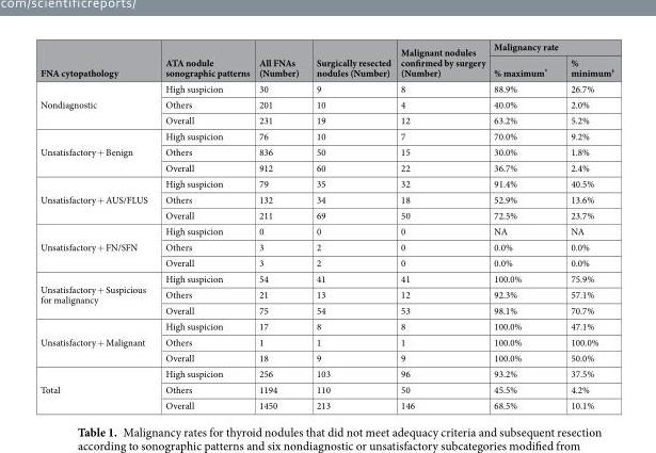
<table><thead><tr><td rowspan="2">FNA cytopathology</td><td rowspan="2">ATA nodule sonographic patterns</td><td rowspan="2">All FNAs (Number)</td><td rowspan="2">Surgically resected nodules (Number)</td><td rowspan="2">Malignant nodules confirmed by surgery (Number)</td><td colspan="2">Malignancy rate</td></tr><tr><td>% maximum*</td><td>% minimum<sup>†</sup></td></tr></thead><tbody><tr><td rowspan="3">Nondiagnostic</td><td>High suspicion</td><td>30</td><td>9</td><td>8</td><td>88.9%</td><td>26.7%</td></tr><tr><td>Others</td><td>201</td><td>10</td><td>4</td><td>40.0%</td><td>2.0%</td></tr><tr><td>Overall</td><td>231</td><td>19</td><td>12</td><td>63.2%</td><td>5.2%</td></tr><tr><td rowspan="3">Unsatisfactory + Benign</td><td>High suspicion</td><td>76</td><td>10</td><td>7</td><td>70.0%</td><td>9.2%</td></tr><tr><td>Others</td><td>836</td><td>50</td><td>15</td><td>30.0%</td><td>1.8%</td></tr><tr><td>Overall</td><td>912</td><td>60</td><td>22</td><td>36.7%</td><td>2.4%</td></tr><tr><td rowspan="3">Unsatisfactory + AUS/FLUS</td><td>High suspicion</td><td>79</td><td>35</td><td>32</td><td>91.4%</td><td>40.5%</td></tr><tr><td>Others</td><td>132</td><td>34</td><td>18</td><td>52.9%</td><td>13.6%</td></tr><tr><td>Overall</td><td>211</td><td>69</td><td>50</td><td>72.5%</td><td>23.7%</td></tr><tr><td rowspan="3">Unsatisfactory + FN/SFN</td><td>High suspicion</td><td>0</td><td>0</td><td>0</td><td>NA</td><td>NA</td></tr><tr><td>Others</td><td>3</td><td>2</td><td>0</td><td>0.0%</td><td>0.0%</td></tr><tr><td>Overall</td><td>3</td><td>2</td><td>0</td><td>0.0%</td><td>0.0%</td></tr><tr><td rowspan="3">Unsatisfactory + Suspicious for malignancy</td><td>High suspicion</td><td>54</td><td>41</td><td>41</td><td>100.0%</td><td>75.9%</td></tr><tr><td>Others</td><td>21</td><td>13</td><td>12</td><td>92.3%</td><td>57.1%</td></tr><tr><td>Overall</td><td>75</td><td>54</td><td>53</td><td>98.1%</td><td>70.7%</td></tr><tr><td rowspan="3">Unsatisfactory + Malignant</td><td>High suspicion</td><td>17</td><td>8</td><td>8</td><td>100.0%</td><td>47.1%</td></tr><tr><td>Others</td><td>1</td><td>1</td><td>1</td><td>100.0%</td><td>100.0%</td></tr><tr><td>Overall</td><td>18</td><td>9</td><td>9</td><td>100.0%</td><td>50.0%</td></tr><tr><td rowspan="3">Total</td><td>High suspicion</td><td>256</td><td>103</td><td>96</td><td>93.2%</td><td>37.5%</td></tr><tr><td>Others</td><td>1194</td><td>110</td><td>50</td><td>45.5%</td><td>4.2%</td></tr><tr><td>Overall</td><td>1450</td><td>213</td><td>146</td><td>68.5%</td><td>10.1%</td></tr></tbody></table>